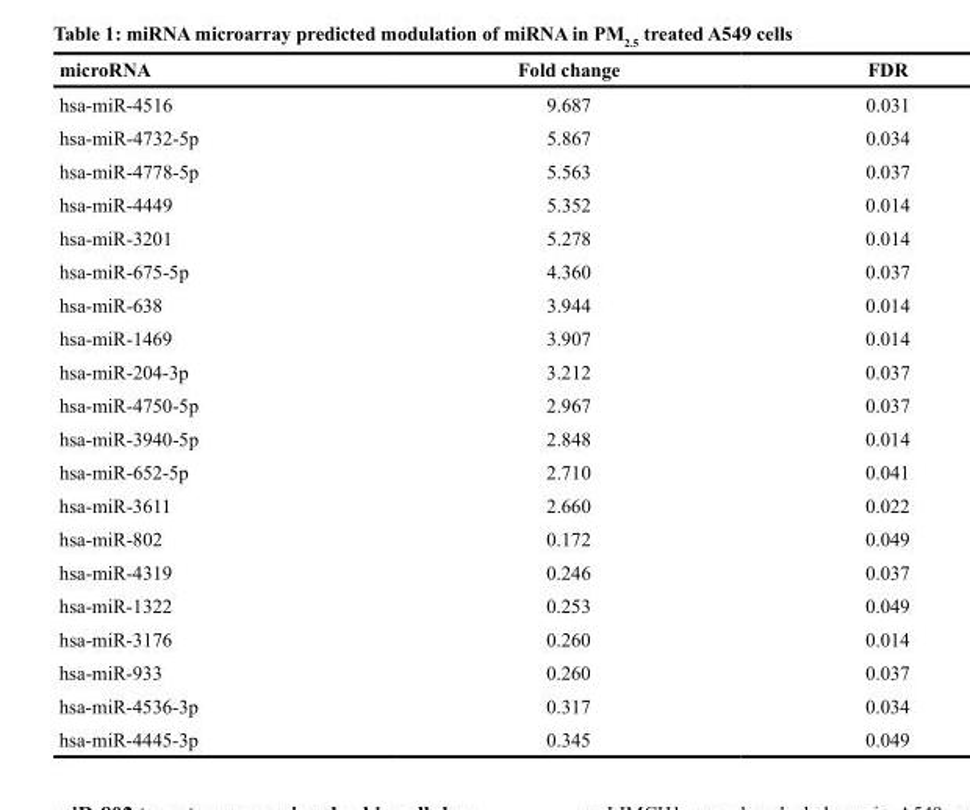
<table><thead><tr><td>microRNA</td><td>Fold change</td><td>FDR</td></tr></thead><tbody><tr><td>hsa-miR-4516</td><td>9.687</td><td>0.031</td></tr><tr><td>hsa-miR-4732-5p</td><td>5.867</td><td>0.034</td></tr><tr><td>hsa-miR-4778-5p</td><td>5.563</td><td>0.037</td></tr><tr><td>hsa-miR-4449</td><td>5.352</td><td>0.014</td></tr><tr><td>hsa-miR-3201</td><td>5.278</td><td>0.014</td></tr><tr><td>hsa-miR-675-5p</td><td>4.360</td><td>0.037</td></tr><tr><td>hsa-miR-638</td><td>3.944</td><td>0.014</td></tr><tr><td>hsa-miR-1469</td><td>3.907</td><td>0.014</td></tr><tr><td>hsa-miR-204-3p</td><td>3.212</td><td>0.037</td></tr><tr><td>hsa-miR-4750-5p</td><td>2.967</td><td>0.037</td></tr><tr><td>hsa-miR-3940-5p</td><td>2.848</td><td>0.014</td></tr><tr><td>hsa-miR-652-5p</td><td>2.710</td><td>0.041</td></tr><tr><td>hsa-miR-3611</td><td>2.660</td><td>0.022</td></tr><tr><td>hsa-miR-802</td><td>0.172</td><td>0.049</td></tr><tr><td>hsa-miR-4319</td><td>0.246</td><td>0.037</td></tr><tr><td>hsa-miR-1322</td><td>0.253</td><td>0.049</td></tr><tr><td>hsa-miR-3176</td><td>0.260</td><td>0.014</td></tr><tr><td>hsa-miR-933</td><td>0.260</td><td>0.037</td></tr><tr><td>hsa-miR-4536-3p</td><td>0.317</td><td>0.034</td></tr><tr><td>hsa-miR-4445-3p</td><td>0.345</td><td>0.049</td></tr></tbody></table>